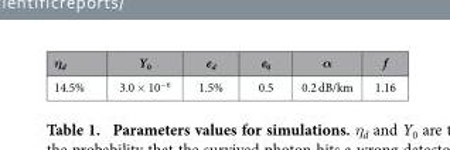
<table><thead><tr><td>η<sub>d</sub></td><td>Y<sub>0</sub></td><td>e<sub>d</sub></td><td>e<sub>0</sub></td><td>α</td><td>f</td></tr></thead><tbody><tr><td>14.5%</td><td>3.0 × 10<sup>−6</sup></td><td>1.5%</td><td>0.5</td><td>0.2 dB/km</td><td>1.16</td></tr></tbody></table>